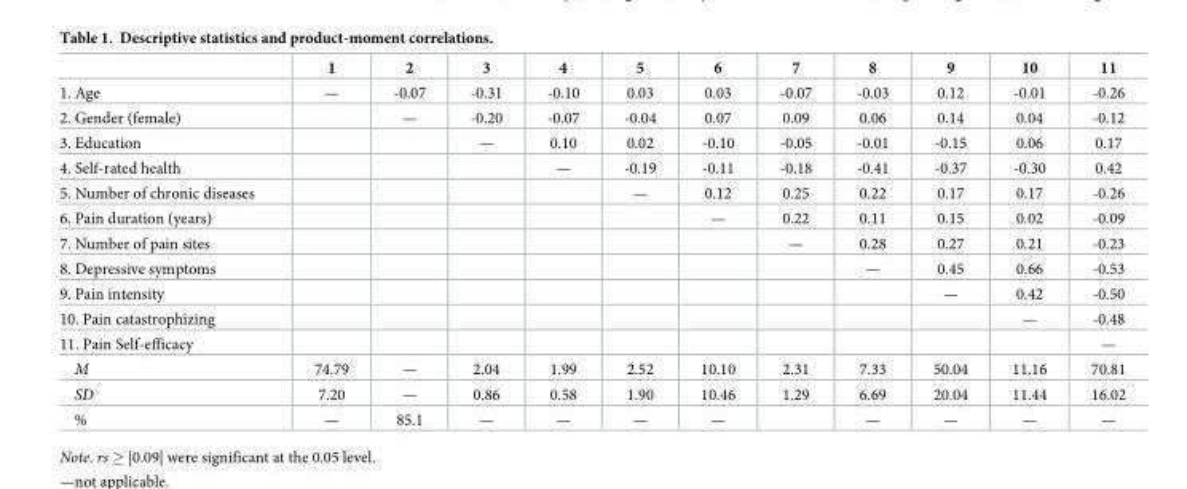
<table><thead><tr><td></td><td>1</td><td>2</td><td>3</td><td>4</td><td>5</td><td>6</td><td>7</td><td>8</td><td>9</td><td>10</td><td>11</td></tr></thead><tbody><tr><td>1. Age</td><td>—</td><td>-0.07</td><td>-0.31</td><td>-0.10</td><td>0.03</td><td>0.03</td><td>-0.07</td><td>-0.03</td><td>0.12</td><td>-0.01</td><td>-0.26</td></tr><tr><td>2. Gender (female)</td><td></td><td>—</td><td>-0.20</td><td>-0.07</td><td>-0.04</td><td>0.07</td><td>0.09</td><td>0.06</td><td>0.14</td><td>0.04</td><td>-0.12</td></tr><tr><td>3. Education</td><td></td><td></td><td>—</td><td>0.10</td><td>0.02</td><td>-0.10</td><td>-0.05</td><td>-0.01</td><td>-0.15</td><td>0.06</td><td>0.17</td></tr><tr><td>4. Self-rated health</td><td></td><td></td><td></td><td>—</td><td>-0.19</td><td>-0.11</td><td>-0.18</td><td>-0.41</td><td>-0.37</td><td>-0.30</td><td>0.42</td></tr><tr><td>5. Number of chronic diseases</td><td></td><td></td><td></td><td></td><td>—</td><td>0.12</td><td>0.25</td><td>0.22</td><td>0.17</td><td>0.17</td><td>-0.26</td></tr><tr><td>6. Pain duration (years)</td><td></td><td></td><td></td><td></td><td></td><td>—</td><td>0.22</td><td>0.11</td><td>0.15</td><td>0.02</td><td>-0.09</td></tr><tr><td>7. Number of pain sites</td><td></td><td></td><td></td><td></td><td></td><td></td><td>—</td><td>0.28</td><td>0.27</td><td>0.21</td><td>-0.23</td></tr><tr><td>8. Depressive symptoms</td><td></td><td></td><td></td><td></td><td></td><td></td><td></td><td>—</td><td>0.45</td><td>0.66</td><td>-0.53</td></tr><tr><td>9. Pain intensity</td><td></td><td></td><td></td><td></td><td></td><td></td><td></td><td></td><td>—</td><td>0.42</td><td>-0.50</td></tr><tr><td>10. Pain catastrophizing</td><td></td><td></td><td></td><td></td><td></td><td></td><td></td><td></td><td></td><td>—</td><td>-0.48</td></tr><tr><td>11. Pain Self-efficacy</td><td></td><td></td><td></td><td></td><td></td><td></td><td></td><td></td><td></td><td></td><td>—</td></tr><tr><td>M</td><td>74.79</td><td>—</td><td>2.04</td><td>1.99</td><td>2.52</td><td>10.10</td><td>2.31</td><td>7.33</td><td>50.04</td><td>11.16</td><td>70.81</td></tr><tr><td>SD</td><td>7.20</td><td>—</td><td>0.86</td><td>0.58</td><td>1.90</td><td>10.46</td><td>1.29</td><td>6.69</td><td>20.04</td><td>11.44</td><td>16.02</td></tr><tr><td>%</td><td>—</td><td>85.1</td><td>—</td><td>—</td><td>—</td><td>—</td><td></td><td>—</td><td>—</td><td>—</td><td>—</td></tr></tbody></table>